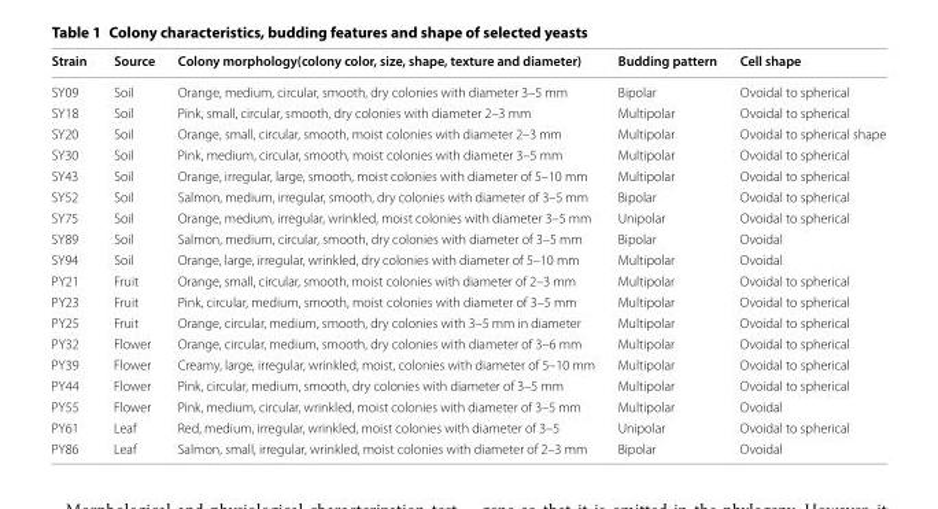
<table><thead><tr><td>Strain</td><td>Source</td><td>Colony morphology(colony color, size, shape, texture and diameter)</td><td>Budding pattern</td><td>Cell shape</td></tr></thead><tbody><tr><td>SY09</td><td>Soil</td><td>Orange, medium, circular, smooth, dry colonies with diameter 3–5 mm</td><td>Bipolar</td><td>Ovoidal to spherical</td></tr><tr><td>SY18</td><td>Soil</td><td>Pink, small, circular, smooth, dry colonies with diameter 2–3 mm</td><td>Multipolar</td><td>Ovoidal to spherical</td></tr><tr><td>SY20</td><td>Soil</td><td>Orange, small, circular, smooth, moist colonies with diameter 2–3 mm</td><td>Multipolar</td><td>Ovoidal to spherical shape</td></tr><tr><td>SY30</td><td>Soil</td><td>Pink, medium, circular, smooth, moist colonies with diameter 3–5 mm</td><td>Multipolar</td><td>Ovoidal to spherical</td></tr><tr><td>SY43</td><td>Soil</td><td>Orange, irregular, large, smooth, moist colonies with diameter of 5–10 mm</td><td>Multipolar</td><td>Ovoidal to spherical</td></tr><tr><td>SY52</td><td>Soil</td><td>Salmon, medium, irregular, smooth, dry colonies with diameter of 3–5 mm</td><td>Bipolar</td><td>Ovoidal to spherical</td></tr><tr><td>SY75</td><td>Soil</td><td>Orange, medium, irregular, wrinkled, moist colonies with diameter 3–5 mm</td><td>Unipolar</td><td>Ovoidal to spherical</td></tr><tr><td>SY89</td><td>Soil</td><td>Salmon, medium, circular, smooth, dry colonies with diameter of 3–5 mm</td><td>Bipolar</td><td>Ovoidal</td></tr><tr><td>SY94</td><td>Soil</td><td>Orange, large, irregular, wrinkled, dry colonies with diameter of 5–10 mm</td><td>Multipolar</td><td>Ovoidal</td></tr><tr><td>PY21</td><td>Fruit</td><td>Orange, small, circular, smooth, moist colonies with diameter of 2–3 mm</td><td>Multipolar</td><td>Ovoidal to spherical</td></tr><tr><td>PY23</td><td>Fruit</td><td>Pink, circular, medium, smooth, moist colonies with diameter of 3–5 mm</td><td>Multipolar</td><td>Ovoidal to spherical</td></tr><tr><td>PY25</td><td>Fruit</td><td>Orange, circular, medium, smooth, dry colonies with 3–5 mm in diameter</td><td>Multipolar</td><td>Ovoidal to spherical</td></tr><tr><td>PY32</td><td>Flower</td><td>Orange, circular, medium, smooth, dry colonies with diameter of 3–6 mm</td><td>Multipolar</td><td>Ovoidal to spherical</td></tr><tr><td>PY39</td><td>Flower</td><td>Creamy, large, irregular, wrinkled, moist, colonies with diameter of 5–10 mm</td><td>Multipolar</td><td>Ovoidal to spherical</td></tr><tr><td>PY44</td><td>Flower</td><td>Pink, circular, medium, smooth, dry colonies with diameter of 3–5 mm</td><td>Multipolar</td><td>Ovoidal to spherical</td></tr><tr><td>PY55</td><td>Flower</td><td>Pink, medium, circular, wrinkled, moist colonies with diameter of 3–5 mm</td><td>Multipolar</td><td>Ovoidal</td></tr><tr><td>PY61</td><td>Leaf</td><td>Red, medium, irregular, wrinkled, moist colonies with diameter of 3–5</td><td>Unipolar</td><td>Ovoidal to spherical</td></tr><tr><td>PY86</td><td>Leaf</td><td>Salmon, small, irregular, wrinkled, moist colonies with diameter of 2–3 mm</td><td>Bipolar</td><td>Ovoidal</td></tr></tbody></table>